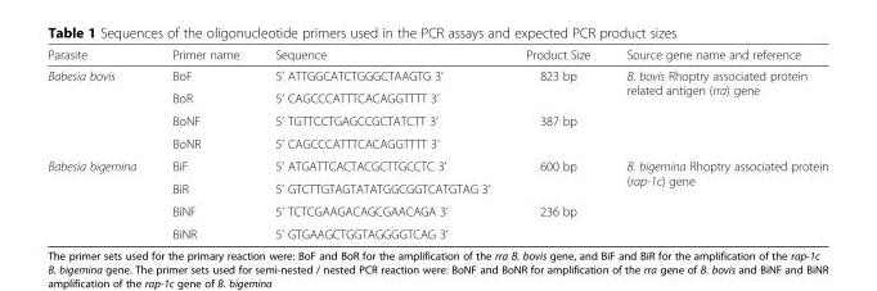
<table><thead><tr><td>Parasite</td><td>Primer name</td><td>Sequence</td><td>Product Size</td><td>Source gene name and reference</td></tr></thead><tbody><tr><td rowspan="4">Babesia bovis</td><td>BoF</td><td>5’ ATTGGCATCTGGGCTAAGTG 3’</td><td rowspan="2">823 bp</td><td rowspan="4">B. bovis Rhoptry associated protein related antigen (rra) gene</td></tr><tr><td>BoR</td><td>5’ CAGCCCATTTCACAGGTTTT 3’</td></tr><tr><td>BoNF</td><td>5’ TGTTCCTGAGCCGCTATCTT 3’</td><td rowspan="2">387 bp</td></tr><tr><td>BoNR</td><td>5’ CAGCCCATTTCACAGGTTTT 3’</td></tr><tr><td rowspan="4">Babesia bigemina</td><td>BiF</td><td>5’ ATGATTCACTACGCTTGCCTC 3’</td><td rowspan="2">600 bp</td><td rowspan="4">B. bigemina Rhoptry associated protein (rap-1c) gene</td></tr><tr><td>BiR</td><td>5’ GTCTTGTAGTATATGGCGGTCATGTAG 3’</td></tr><tr><td>BiNF</td><td>5’ TCTCGAAGACAGCGAACAGA 3’</td><td rowspan="2">236 bp</td></tr><tr><td>BiNR</td><td>5’ GTGAAGCTGGTAGGGGTCAG 3’</td></tr></tbody></table>